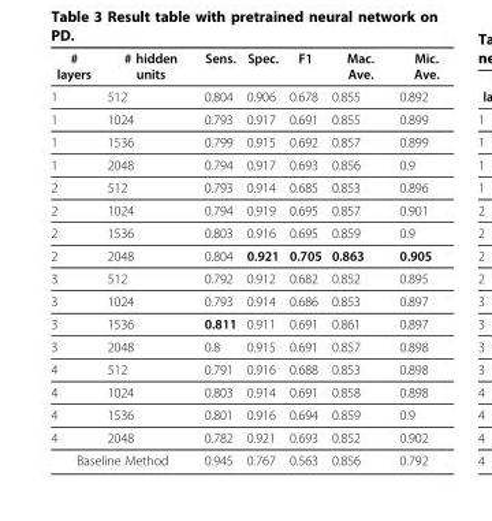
<table><thead><tr><td># layers</td><td># hidden units</td><td>Sens.</td><td>Spec.</td><td>F1</td><td>Mac. Ave.</td><td>Mic. Ave.</td></tr></thead><tbody><tr><td>1</td><td>512</td><td>0.804</td><td>0.906</td><td>0.678</td><td>0.855</td><td>0.892</td></tr><tr><td>1</td><td>1024</td><td>0.793</td><td>0.917</td><td>0.691</td><td>0.855</td><td>0.899</td></tr><tr><td>1</td><td>1536</td><td>0.799</td><td>0.915</td><td>0.692</td><td>0.857</td><td>0.899</td></tr><tr><td>1</td><td>2048</td><td>0.794</td><td>0.917</td><td>0.693</td><td>0.856</td><td>0.9</td></tr><tr><td>2</td><td>512</td><td>0.793</td><td>0.914</td><td>0.685</td><td>0.853</td><td>0.896</td></tr><tr><td>2</td><td>1024</td><td>0.794</td><td>0.919</td><td>0.695</td><td>0.857</td><td>0.901</td></tr><tr><td>2</td><td>1536</td><td>0.803</td><td>0.916</td><td>0.695</td><td>0.859</td><td>0.9</td></tr><tr><td>2</td><td>2048</td><td>0.804</td><td>0.921</td><td>0.705</td><td>0.863</td><td>0.905</td></tr><tr><td>3</td><td>512</td><td>0.792</td><td>0.912</td><td>0.682</td><td>0.852</td><td>0.895</td></tr><tr><td>3</td><td>1024</td><td>0.793</td><td>0.914</td><td>0.686</td><td>0.853</td><td>0.897</td></tr><tr><td>3</td><td>1536</td><td>0.811</td><td>0.911</td><td>0.691</td><td>0.861</td><td>0.897</td></tr><tr><td>3</td><td>2048</td><td>0.8</td><td>0.915</td><td>0.691</td><td>0.857</td><td>0.898</td></tr><tr><td>4</td><td>512</td><td>0.791</td><td>0.916</td><td>0.688</td><td>0.853</td><td>0.898</td></tr><tr><td>4</td><td>1024</td><td>0.803</td><td>0.914</td><td>0.691</td><td>0.858</td><td>0.898</td></tr><tr><td>4</td><td>1536</td><td>0.801</td><td>0.916</td><td>0.694</td><td>0.859</td><td>0.9</td></tr><tr><td>4</td><td>2048</td><td>0.782</td><td>0.921</td><td>0.693</td><td>0.852</td><td>0.902</td></tr><tr><td colspan="2">Baseline Method</td><td>0.945</td><td>0.767</td><td>0.563</td><td>0.856</td><td>0.792</td></tr></tbody></table>